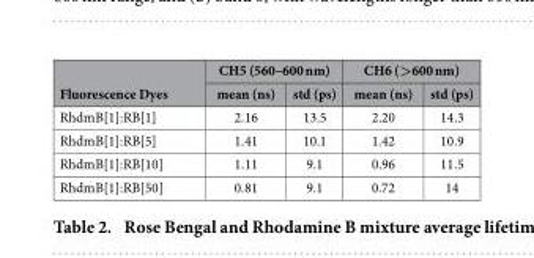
<table><thead><tr><td rowspan="2">Fluorescence Dyes</td><td colspan="2">CH5 (560–600 nm)</td><td colspan="2">CH6 (&gt;600 nm)</td></tr><tr><td>mean (ns)</td><td>std (ps)</td><td>mean (ns)</td><td>std (ps)</td></tr></thead><tbody><tr><td>RhdmB[1]:RB[1]</td><td>2.16</td><td>13.5</td><td>2.20</td><td>14.3</td></tr><tr><td>RhdmB[1]:RB[5]</td><td>1.41</td><td>10.1</td><td>1.42</td><td>10.9</td></tr><tr><td>RhdmB[1]:RB[10]</td><td>1.11</td><td>9.1</td><td>0.96</td><td>11.5</td></tr><tr><td>RhdmB[1]:RB[50]</td><td>0.81</td><td>9.1</td><td>0.72</td><td>14</td></tr></tbody></table>